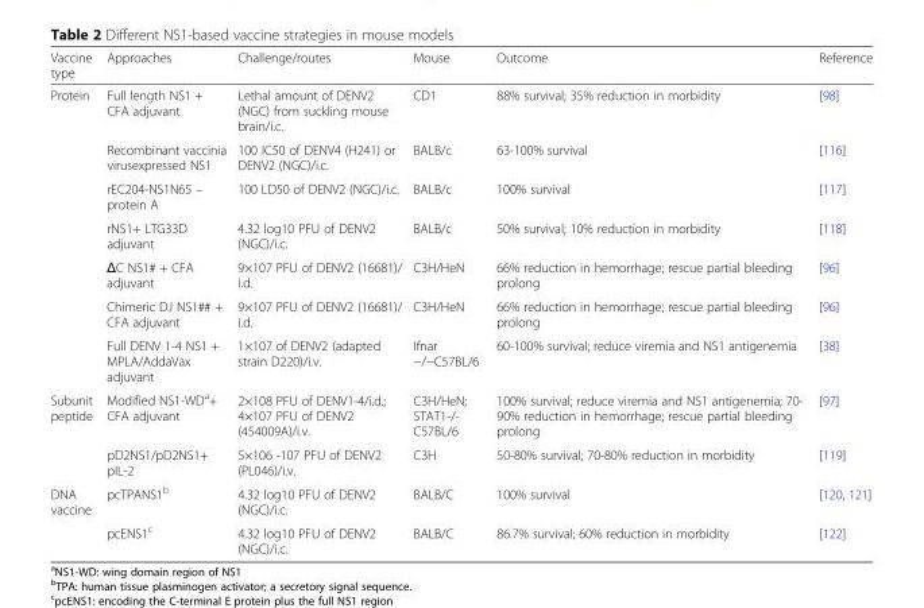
<table><thead><tr><td>Vaccine type</td><td>Approaches</td><td>Challenge/routes</td><td>Mouse</td><td>Outcome</td><td>Reference</td></tr></thead><tbody><tr><td rowspan="7">Protein</td><td>Full length NS1 + CFA adjuvant</td><td>Lethal amount of DENV2 (NGC) from suckling mouse brain/i.c.</td><td>CD1</td><td>88% survival; 35% reduction in morbidity</td><td>[98]</td></tr><tr><td>Recombinant vaccinia virusexpressed NS1</td><td>100 IC50 of DENV4 (H241) or DENV2 (NGC)/i.c.</td><td>BALB/c</td><td>63-100% survival</td><td>[116]</td></tr><tr><td>rEC204-NS1N65 – protein A</td><td>100 LD50 of DENV2 (NGC)/i.c.</td><td>BALB/c</td><td>100% survival</td><td>[117]</td></tr><tr><td>rNS1+ LTG33D adjuvant</td><td>4.32 log10 PFU of DENV2 (NGC)/i.c.</td><td>BALB/c</td><td>50% survival; 10% reduction in morbidity</td><td>[118]</td></tr><tr><td>ΔC NS1# + CFA adjuvant</td><td>9×107 PFU of DENV2 (16681)/ i.d.</td><td>C3H/HeN</td><td>66% reduction in hemorrhage; rescue partial bleeding prolong</td><td>[96]</td></tr><tr><td>Chimeric DJ NS1## + CFA adjuvant</td><td>9×107 PFU of DENV2 (16681)/ i.d.</td><td>C3H/HeN</td><td>66% reduction in hemorrhage; rescue partial bleeding prolong</td><td>[96]</td></tr><tr><td>Full DENV 1-4 NS1 + MPLA/AddaVax adjuvant</td><td>1×107 of DENV2 (adapted strain D220)/i.v.</td><td>Ifnar −/−C57BL/6</td><td>60-100% survival; reduce viremia and NS1 antigenemia</td><td>[38]</td></tr><tr><td rowspan="2">Subunit peptide</td><td>Modified NS1-WD<sup>a</sup>+ CFA adjuvant</td><td>2×108 PFU of DENV1-4/i.d.; 4×107 PFU of DENV2 (454009A)/i.v.</td><td>C3H/HeN; STAT1-/- C57BL/6</td><td>100% survival; reduce viremia and NS1 antigenemia; 70- 90% reduction in hemorrhage; rescue partial bleeding prolong</td><td>[97]</td></tr><tr><td>pD2NS1/pD2NS1+ pIL-2</td><td>5×106 -107 PFU of DENV2 (PL046)/i.v.</td><td>C3H</td><td>50-80% survival; 70-80% reduction in morbidity</td><td>[119]</td></tr><tr><td rowspan="2">DNA vaccine</td><td>pcTPANS1<sup>b</sup></td><td>4.32 log10 PFU of DENV2 (NGC)/i.c.</td><td>BALB/C</td><td>100% survival</td><td>[120, 121]</td></tr><tr><td>pcENS1<sup>c</sup></td><td>4.32 log10 PFU of DENV2 (NGC)/i.c.</td><td>BALB/C</td><td>86.7% survival; 60% reduction in morbidity</td><td>[122]</td></tr></tbody></table>